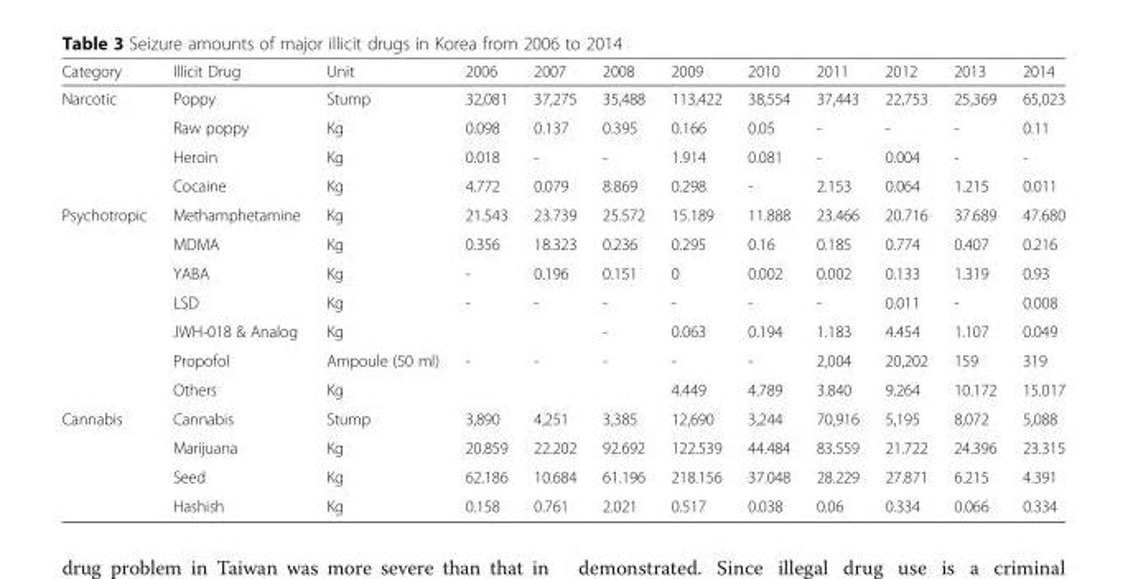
<table><thead><tr><td>Category</td><td>Illicit Drug</td><td>Unit</td><td>2006</td><td>2007</td><td>2008</td><td>2009</td><td>2010</td><td>2011</td><td>2012</td><td>2013</td><td>2014</td></tr></thead><tbody><tr><td rowspan="4">Narcotic</td><td>Poppy</td><td>Stump</td><td>32,081</td><td>37,275</td><td>35,488</td><td>113,422</td><td>38,554</td><td>37,443</td><td>22,753</td><td>25,369</td><td>65,023</td></tr><tr><td>Raw poppy</td><td>Kg</td><td>0.098</td><td>0.137</td><td>0.395</td><td>0.166</td><td>0.05</td><td>-</td><td>-</td><td>-</td><td>0.11</td></tr><tr><td>Heroin</td><td>Kg</td><td>0.018</td><td>-</td><td>-</td><td>1.914</td><td>0.081</td><td>-</td><td>0.004</td><td>-</td><td>-</td></tr><tr><td>Cocaine</td><td>Kg</td><td>4.772</td><td>0.079</td><td>8.869</td><td>0.298</td><td>-</td><td>2.153</td><td>0.064</td><td>1.215</td><td>0.011</td></tr><tr><td rowspan="7">Psychotropic</td><td>Methamphetamine</td><td>Kg</td><td>21.543</td><td>23.739</td><td>25.572</td><td>15.189</td><td>11.888</td><td>23.466</td><td>20.716</td><td>37.689</td><td>47.680</td></tr><tr><td>MDMA</td><td>Kg</td><td>0.356</td><td>18.323</td><td>0.236</td><td>0.295</td><td>0.16</td><td>0.185</td><td>0.774</td><td>0.407</td><td>0.216</td></tr><tr><td>YABA</td><td>Kg</td><td>-</td><td>0.196</td><td>0.151</td><td>0</td><td>0.002</td><td>0.002</td><td>0.133</td><td>1.319</td><td>0.93</td></tr><tr><td>LSD</td><td>Kg</td><td>-</td><td>-</td><td>-</td><td>-</td><td>-</td><td>-</td><td>0.011</td><td>-</td><td>0.008</td></tr><tr><td>JWH-018 &amp; Analog</td><td>Kg</td><td></td><td></td><td>-</td><td>0.063</td><td>0.194</td><td>1.183</td><td>4.454</td><td>1.107</td><td>0.049</td></tr><tr><td>Propofol</td><td>Ampoule (50 ml)</td><td>-</td><td>-</td><td>-</td><td>-</td><td>-</td><td>2,004</td><td>20,202</td><td>159</td><td>319</td></tr><tr><td>Others</td><td>Kg</td><td></td><td></td><td></td><td>4.449</td><td>4.789</td><td>3.840</td><td>9.264</td><td>10.172</td><td>15.017</td></tr><tr><td rowspan="4">Cannabis</td><td>Cannabis</td><td>Stump</td><td>3,890</td><td>4,251</td><td>3,385</td><td>12,690</td><td>3,244</td><td>70,916</td><td>5,195</td><td>8,072</td><td>5,088</td></tr><tr><td>Marijuana</td><td>Kg</td><td>20.859</td><td>22.202</td><td>92.692</td><td>122.539</td><td>44.484</td><td>83.559</td><td>21.722</td><td>24.396</td><td>23.315</td></tr><tr><td>Seed</td><td>Kg</td><td>62.186</td><td>10.684</td><td>61.196</td><td>218.156</td><td>37.048</td><td>28.229</td><td>27.871</td><td>6.215</td><td>4.391</td></tr><tr><td>Hashish</td><td>Kg</td><td>0.158</td><td>0.761</td><td>2.021</td><td>0.517</td><td>0.038</td><td>0.06</td><td>0.334</td><td>0.066</td><td>0.334</td></tr></tbody></table>